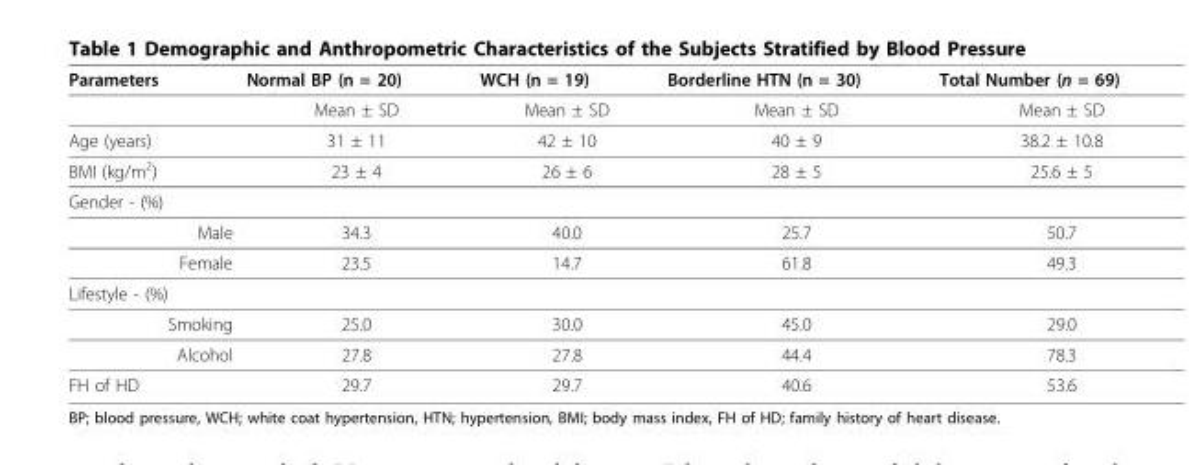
<table><thead><tr><td>Parameters</td><td>Normal BP (n = 20)</td><td>WCH (n = 19)</td><td>Borderline HTN (n = 30)</td><td>Total Number (n = 69)</td></tr></thead><tbody><tr><td></td><td>Mean ± SD</td><td>Mean ± SD</td><td>Mean ± SD</td><td>Mean ± SD</td></tr><tr><td>Age (years)</td><td>31 ± 11</td><td>42 ± 10</td><td>40 ± 9</td><td>38.2 ± 10.8</td></tr><tr><td>BMI (kg/m<sup>2</sup>)</td><td>23 ± 4</td><td>26 ± 6</td><td>28 ± 5</td><td>25.6 ± 5</td></tr><tr><td colspan="5">Gender - (%)</td></tr><tr><td>Male</td><td>34.3</td><td>40.0</td><td>25.7</td><td>50.7</td></tr><tr><td>Female</td><td>23.5</td><td>14.7</td><td>61.8</td><td>49.3</td></tr><tr><td colspan="5">Lifestyle - (%)</td></tr><tr><td>Smoking</td><td>25.0</td><td>30.0</td><td>45.0</td><td>29.0</td></tr><tr><td>Alcohol</td><td>27.8</td><td>27.8</td><td>44.4</td><td>78.3</td></tr><tr><td>FH of HD</td><td>29.7</td><td>29.7</td><td>40.6</td><td>53.6</td></tr></tbody></table>